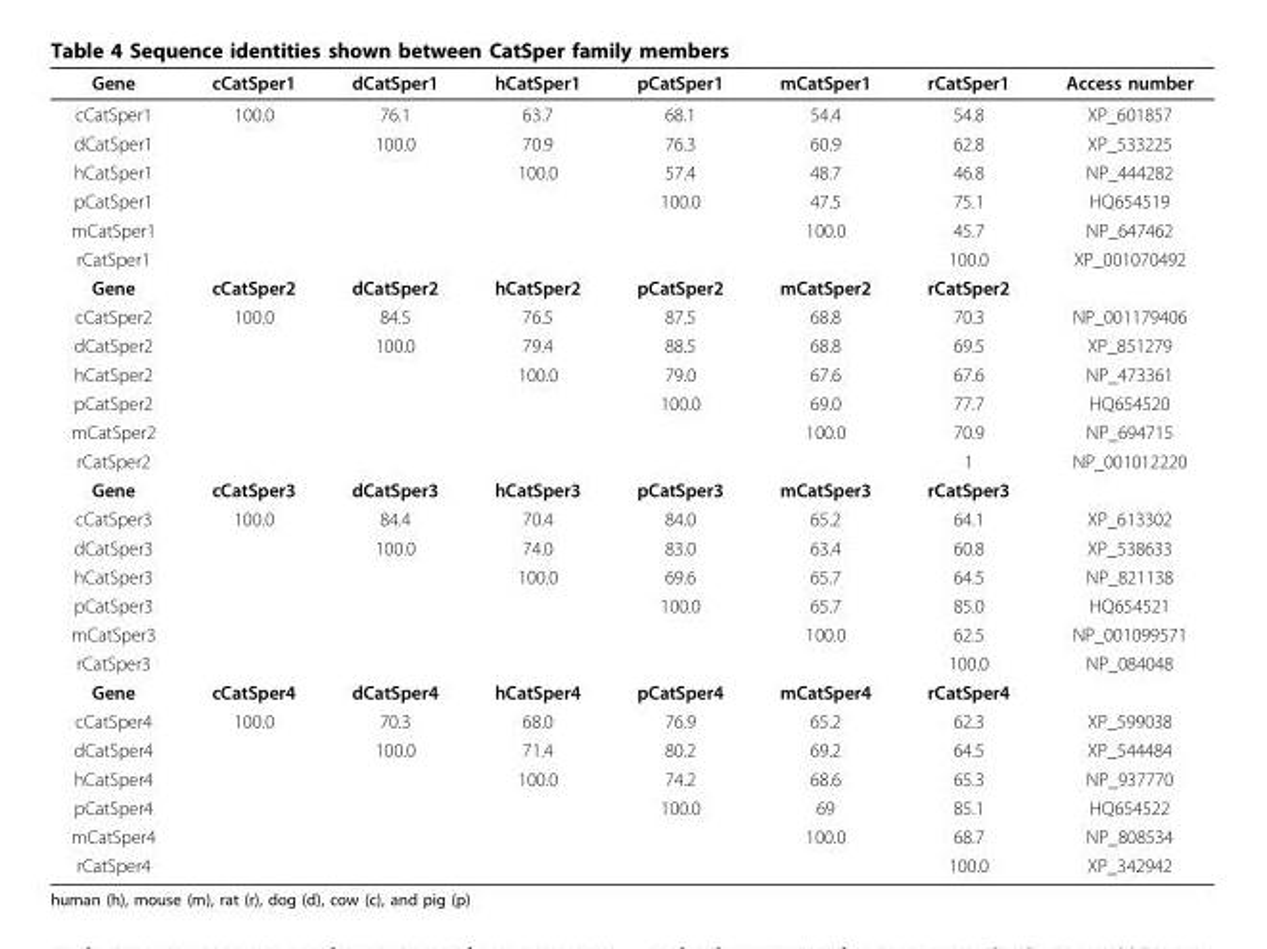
<table><thead><tr><td>Gene</td><td>cCatSper1</td><td>dCatSper1</td><td>hCatSper1</td><td>pCatSper1</td><td>mCatSper1</td><td>rCatSper1</td><td>Access number</td></tr></thead><tbody><tr><td>cCatSper1</td><td>100.0</td><td>76.1</td><td>63.7</td><td>68.1</td><td>54.4</td><td>54.8</td><td>XP_601857</td></tr><tr><td>dCatSper1</td><td></td><td>100.0</td><td>70.9</td><td>76.3</td><td>60.9</td><td>62.8</td><td>XP_533225</td></tr><tr><td>hCatSper1</td><td></td><td></td><td>100.0</td><td>57.4</td><td>48.7</td><td>46.8</td><td>NP_444282</td></tr><tr><td>pCatSper1</td><td></td><td></td><td></td><td>100.0</td><td>47.5</td><td>75.1</td><td>HQ654519</td></tr><tr><td>mCatSper1</td><td></td><td></td><td></td><td></td><td>100.0</td><td>45.7</td><td>NP_647462</td></tr><tr><td>rCatSper1</td><td></td><td></td><td></td><td></td><td></td><td>100.0</td><td>XP_001070492</td></tr><tr><td>Gene</td><td>cCatSper2</td><td>dCatSper2</td><td>hCatSper2</td><td>pCatSper2</td><td>mCatSper2</td><td>rCatSper2</td><td></td></tr><tr><td>cCatSper2</td><td>100.0</td><td>84.5</td><td>76.5</td><td>87.5</td><td>68.8</td><td>70.3</td><td>NP_001179406</td></tr><tr><td>dCatSper2</td><td></td><td>100.0</td><td>79.4</td><td>88.5</td><td>68.8</td><td>69.5</td><td>XP_851279</td></tr><tr><td>hCatSper2</td><td></td><td></td><td>100.0</td><td>79.0</td><td>67.6</td><td>67.6</td><td>NP_473361</td></tr><tr><td>pCatSper2</td><td></td><td></td><td></td><td>100.0</td><td>69.0</td><td>77.7</td><td>HQ654520</td></tr><tr><td>mCatSper2</td><td></td><td></td><td></td><td></td><td>100.0</td><td>70.9</td><td>NP_694715</td></tr><tr><td>rCatSper2</td><td></td><td></td><td></td><td></td><td></td><td>1</td><td>NP_001012220</td></tr><tr><td>Gene</td><td>cCatSper3</td><td>dCatSper3</td><td>hCatSper3</td><td>pCatSper3</td><td>mCatSper3</td><td>rCatSper3</td><td></td></tr><tr><td>cCatSper3</td><td>100.0</td><td>84.4</td><td>70.4</td><td>84.0</td><td>65.2</td><td>64.1</td><td>XP_613302</td></tr><tr><td>dCatSper3</td><td></td><td>100.0</td><td>74.0</td><td>83.0</td><td>63.4</td><td>60.8</td><td>XP_538633</td></tr><tr><td>hCatSper3</td><td></td><td></td><td>100.0</td><td>69.6</td><td>65.7</td><td>64.5</td><td>NP_821138</td></tr><tr><td>pCatSper3</td><td></td><td></td><td></td><td>100.0</td><td>65.7</td><td>85.0</td><td>HQ654521</td></tr><tr><td>mCatSper3</td><td></td><td></td><td></td><td></td><td>100.0</td><td>62.5</td><td>NP_001099571</td></tr><tr><td>rCatSper3</td><td></td><td></td><td></td><td></td><td></td><td>100.0</td><td>NP_084048</td></tr><tr><td>Gene</td><td>cCatSper4</td><td>dCatSper4</td><td>hCatSper4</td><td>pCatSper4</td><td>mCatSper4</td><td>rCatSper4</td><td></td></tr><tr><td>cCatSper4</td><td>100.0</td><td>70.3</td><td>68.0</td><td>76.9</td><td>65.2</td><td>62.3</td><td>XP_599038</td></tr><tr><td>dCatSper4</td><td></td><td>100.0</td><td>71.4</td><td>80.2</td><td>69.2</td><td>64.5</td><td>XP_544484</td></tr><tr><td>hCatSper4</td><td></td><td></td><td>100.0</td><td>74.2</td><td>68.6</td><td>65.3</td><td>NP_937770</td></tr><tr><td>pCatSper4</td><td></td><td></td><td></td><td>100.0</td><td>69</td><td>85.1</td><td>HQ654522</td></tr><tr><td>mCatSper4</td><td></td><td></td><td></td><td></td><td>100.0</td><td>68.7</td><td>NP_808534</td></tr><tr><td>rCatSper4</td><td></td><td></td><td></td><td></td><td></td><td>100.0</td><td>XP_342942</td></tr></tbody></table>